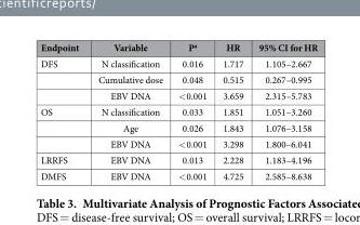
<table><thead><tr><td>Endpoint</td><td>Variable</td><td>P<sup>a</sup></td><td>HR</td><td>95% CI for HR</td></tr></thead><tbody><tr><td rowspan="3">DFS</td><td>N classification</td><td>0.016</td><td>1.717</td><td>1.105–2.667</td></tr><tr><td>Cumulative dose</td><td>0.048</td><td>0.515</td><td>0.267–0.995</td></tr><tr><td>EBV DNA</td><td>&lt; 0.001</td><td>3.659</td><td>2.315–5.783</td></tr><tr><td rowspan="3">OS</td><td>N classification</td><td>0.033</td><td>1.851</td><td>1.051–3.260</td></tr><tr><td>Age</td><td>0.026</td><td>1.843</td><td>1.076–3.158</td></tr><tr><td>EBV DNA</td><td>&lt; 0.001</td><td>3.298</td><td>1.800–6.041</td></tr><tr><td>LRRFS</td><td>EBV DNA</td><td>0.013</td><td>2.228</td><td>1.183–4.196</td></tr><tr><td>DMFS</td><td>EBV DNA</td><td>&lt; 0.001</td><td>4.725</td><td>2.585–8.638</td></tr></tbody></table>